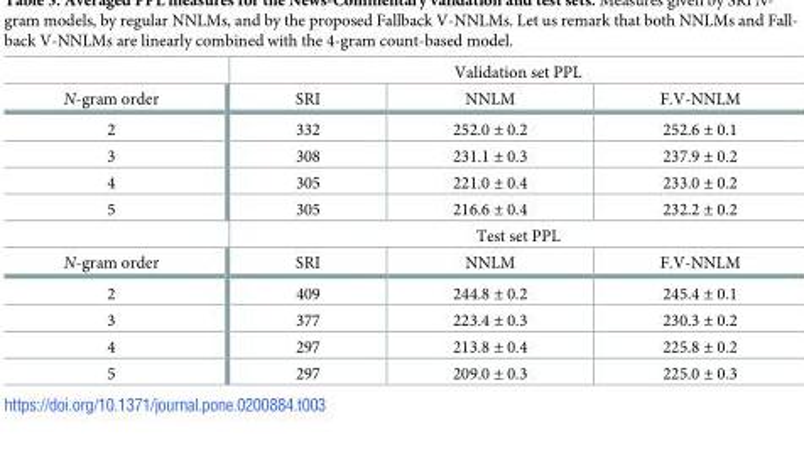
<table><thead><tr><td rowspan="2">N-gram order</td><td colspan="3">Validation set PPL</td></tr><tr><td>SRI</td><td>NNLM</td><td>F.V-NNLM</td></tr></thead><tbody><tr><td>2</td><td>332</td><td>252.0 ± 0.2</td><td>252.6 ± 0.1</td></tr><tr><td>3</td><td>308</td><td>231.1 ± 0.3</td><td>237.9 ± 0.2</td></tr><tr><td>4</td><td>305</td><td>221.0 ± 0.4</td><td>233.0 ± 0.2</td></tr><tr><td rowspan="2">5</td><td>305</td><td>216.6 ± 0.4</td><td>232.2 ± 0.2</td></tr><tr><td colspan="3">Test set PPL</td></tr><tr><td>N-gram order</td><td>SRI</td><td>NNLM</td><td>F.V-NNLM</td></tr><tr><td>2</td><td>409</td><td>244.8 ± 0.2</td><td>245.4 ± 0.1</td></tr><tr><td>3</td><td>377</td><td>223.4 ± 0.3</td><td>230.3 ± 0.2</td></tr><tr><td>4</td><td>297</td><td>213.8 ± 0.4</td><td>225.8 ± 0.2</td></tr><tr><td>5</td><td>297</td><td>209.0 ± 0.3</td><td>225.0 ± 0.3</td></tr></tbody></table>